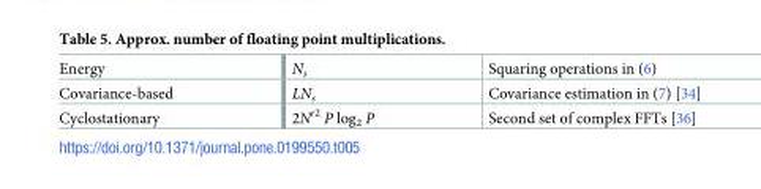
<table><tbody><tr><td>Energy</td><td>N<sub>s</sub></td><td>Squaring operations in (6)</td></tr><tr><td>Covariance-based</td><td>LN<sub>s</sub></td><td>Covariance estimation in (7) [34]</td></tr><tr><td>Cyclostationary</td><td>2N′<sup>2</sup> P log<sub>2</sub> P</td><td>Second set of complex FFTs [36]</td></tr></tbody></table>